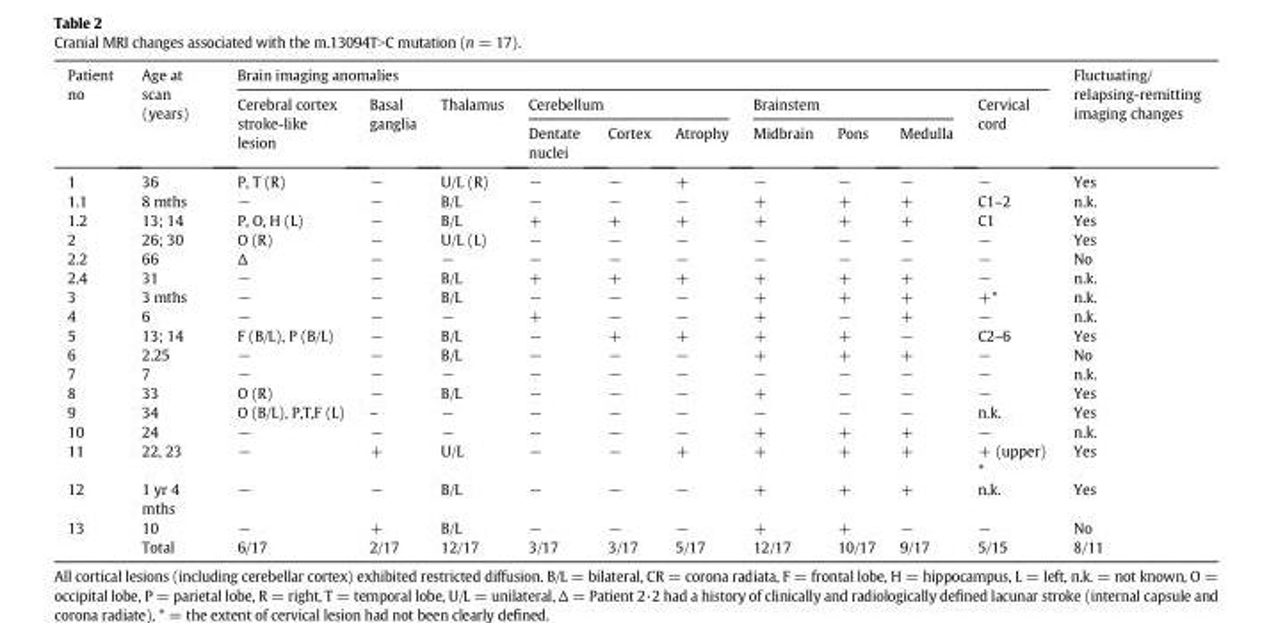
<table><thead><tr><td rowspan="3">Patient no</td><td rowspan="3">Age at scan (years)</td><td colspan="10">Brain imaging anomalies</td><td rowspan="3">Fluctuating/ relapsing-remitting imaging changes</td></tr><tr><td rowspan="2">Cerebral cortex stroke-like lesion</td><td rowspan="2">Basal ganglia</td><td rowspan="2">Thalamus</td><td colspan="3">Cerebellum</td><td colspan="3">Brainstem</td><td rowspan="2">Cervical cord</td></tr><tr><td>Dentate nuclei</td><td>Cortex</td><td>Atrophy</td><td>Midbrain</td><td>Pons</td><td>Medulla</td></tr></thead><tbody><tr><td>1</td><td>36</td><td>P, T (R)</td><td>−</td><td>U/L (R)</td><td>−</td><td>−</td><td>+</td><td>−</td><td>−</td><td>−</td><td>−</td><td>Yes</td></tr><tr><td>1.1</td><td>8 mths</td><td>−</td><td>−</td><td>B/L</td><td>−</td><td>−</td><td>−</td><td>+</td><td>+</td><td>+</td><td>C1–2</td><td>n.k.</td></tr><tr><td>1.2</td><td>13; 14</td><td>P, O, H (L)</td><td>−</td><td>B/L</td><td>+</td><td>+</td><td>+</td><td>+</td><td>+</td><td>+</td><td>C1</td><td>Yes</td></tr><tr><td>2</td><td>26; 30</td><td>O (R)</td><td>−</td><td>U/L (L)</td><td>−</td><td>−</td><td>−</td><td>−</td><td>−</td><td>−</td><td>−</td><td>Yes</td></tr><tr><td>2.2</td><td>66</td><td>Δ</td><td>−</td><td>−</td><td>−</td><td>−</td><td>−</td><td>−</td><td>−</td><td>−</td><td>−</td><td>No</td></tr><tr><td>2.4</td><td>31</td><td>−</td><td>−</td><td>B/L</td><td>+</td><td>+</td><td>+</td><td>+</td><td>+</td><td>+</td><td>−</td><td>n.k.</td></tr><tr><td>3</td><td>3 mths</td><td>−</td><td>−</td><td>B/L</td><td>−</td><td>−</td><td>−</td><td>+</td><td>+</td><td>+</td><td>+*</td><td>n.k.</td></tr><tr><td>4</td><td>6</td><td>−</td><td>−</td><td>−</td><td>+</td><td>−</td><td>−</td><td>+</td><td>−</td><td>+</td><td>−</td><td>n.k.</td></tr><tr><td>5</td><td>13; 14</td><td>F (B/L), P (B/L)</td><td>−</td><td>B/L</td><td>−</td><td>+</td><td>+</td><td>+</td><td>+</td><td>−</td><td>C2–6</td><td>Yes</td></tr><tr><td>6</td><td>2.25</td><td>−</td><td>−</td><td>B/L</td><td>−</td><td>−</td><td>−</td><td>+</td><td>+</td><td>+</td><td>−</td><td>No</td></tr><tr><td>7</td><td>7</td><td>−</td><td>−</td><td>−</td><td>−</td><td>−</td><td>−</td><td>−</td><td>−</td><td>−</td><td>−</td><td>n.k.</td></tr><tr><td>8</td><td>33</td><td>O (R)</td><td>−</td><td>B/L</td><td>−</td><td>−</td><td>−</td><td>+</td><td>−</td><td>−</td><td>−</td><td>Yes</td></tr><tr><td>9</td><td>34</td><td>O (B/L), P,T,F (L)</td><td>–</td><td>−</td><td>−</td><td>−</td><td>−</td><td>−</td><td>−</td><td>−</td><td>n.k.</td><td>Yes</td></tr><tr><td>10</td><td>24</td><td>−</td><td>−</td><td>−</td><td>−</td><td>−</td><td>−</td><td>+</td><td>+</td><td>+</td><td>−</td><td>n.k.</td></tr><tr><td>11</td><td>22, 23</td><td>−</td><td>+</td><td>U/L</td><td>−</td><td>−</td><td>+</td><td>+</td><td>+</td><td>+</td><td>+ (upper) *</td><td>Yes</td></tr><tr><td>12</td><td>1 yr 4 mths</td><td>−</td><td>−</td><td>B/L</td><td>−</td><td>−</td><td>−</td><td>+</td><td>+</td><td>+</td><td>n.k.</td><td>Yes</td></tr><tr><td rowspan="2">13</td><td>10</td><td>−</td><td>+</td><td>B/L</td><td>−</td><td>−</td><td>−</td><td>+</td><td>+</td><td>−</td><td>−</td><td>No</td></tr><tr><td>Total</td><td>6/17</td><td>2/17</td><td>12/17</td><td>3/17</td><td>3/17</td><td>5/17</td><td>12/17</td><td>10/17</td><td>9/17</td><td>5/15</td><td>8/11</td></tr></tbody></table>